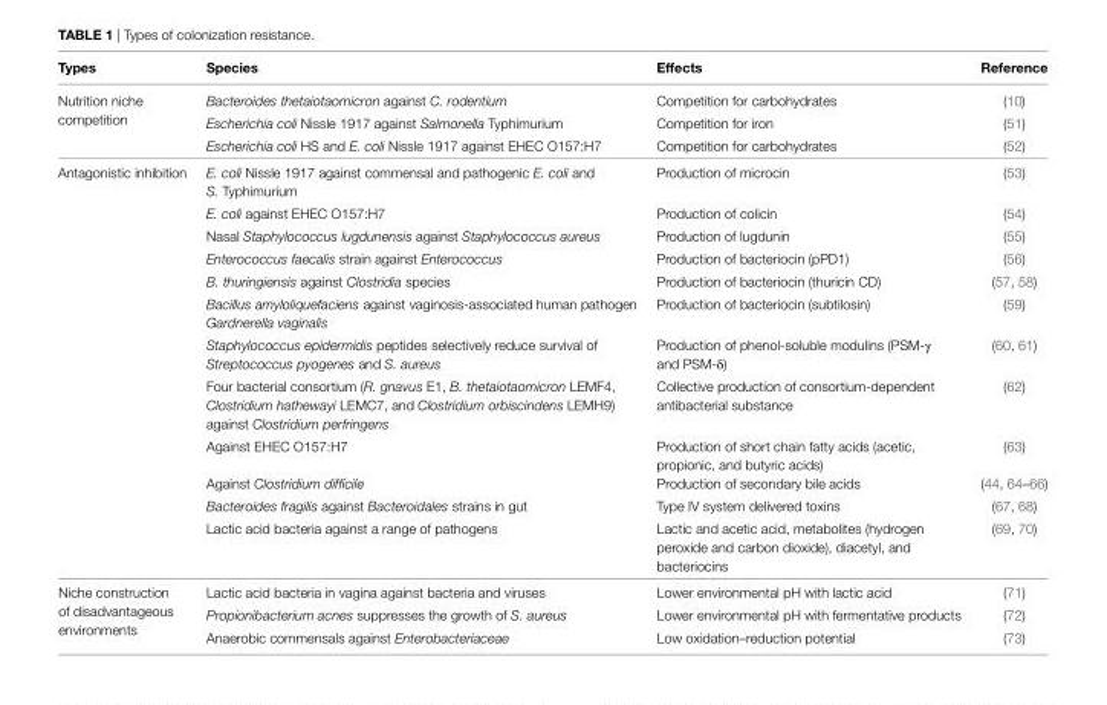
<table><thead><tr><td>Types</td><td>Species</td><td>effects</td><td>Reference</td></tr></thead><tbody><tr><td rowspan="3">Nutrition niche competition</td><td>Bacteroides thetaiotaomicron against C. rodentium</td><td>Competition for carbohydrates</td><td>(10)</td></tr><tr><td>Escherichia coli Nissle 1917 against Salmonella Typhimurium</td><td>Competition for iron</td><td>(51)</td></tr><tr><td>Escherichia coli HS and E. coli Nissle 1917 against EHEC O157:H7</td><td>Competition for carbohydrates</td><td>(52)</td></tr><tr><td rowspan="12">Antagonistic inhibition</td><td>E. coli Nissle 1917 against commensal and pathogenic E. coli and S. Typhimurium</td><td>Production of microcin</td><td>(53)</td></tr><tr><td>E. coli against EHEC O157:H7</td><td>Production of colicin</td><td>(54)</td></tr><tr><td>Nasal Staphylococcus lugdunensis against Staphylococcus aureus</td><td>Production of lugdunin</td><td>(55)</td></tr><tr><td>Enterococcus faecalis strain against Enterococcus</td><td>Production of bacteriocin (pPD1)</td><td>(56)</td></tr><tr><td>B. thuringiensis against Clostridia species</td><td>Production of bacteriocin (thuricin CD)</td><td>(57, 58)</td></tr><tr><td>Bacillus amyloliquefaciens against vaginosis-associated human pathogen Gardnerella vaginalis</td><td>Production of bacteriocin (subtilosin)</td><td>(59)</td></tr><tr><td>Staphylococcus epidermidis peptides selectively reduce survival of Streptococcus pyogenes and S. aureus</td><td>Production of phenol-soluble modulins (PSM-γ and PSM-δ)</td><td>(60, 61)</td></tr><tr><td>Four bacterial consortium (R. gnavus E1, B. thetaiotaomicron LEMF4, Clostridium hathewayi LEMC7, and Clostridium orbiscindens LEMH9) against Clostridium perfringens</td><td>Collective production of consortium-dependent antibacterial substance</td><td>(62)</td></tr><tr><td>Against EHEC O157:H7</td><td>Production of short chain fatty acids (acetic, propionic, and butyric acids)</td><td>(63)</td></tr><tr><td>Against Clostridium difficile</td><td>Production of secondary bile acids</td><td>(44, 64–66)</td></tr><tr><td>Bacteroides fragilis against Bacteroidales strains in gut</td><td>Type IV system delivered toxins</td><td>(67, 68)</td></tr><tr><td>Lactic acid bacteria against a range of pathogens</td><td>Lactic and acetic acid, metabolites (hydrogen peroxide and carbon dioxide), diacetyl, and bacteriocins</td><td>(69, 70)</td></tr><tr><td rowspan="3">Niche construction of disadvantageous environments</td><td>Lactic acid bacteria in vagina against bacteria and viruses</td><td>Lower environmental pH with lactic acid</td><td>(71)</td></tr><tr><td>Propionibacterium acnes suppresses the growth of S. aureus</td><td>Lower environmental pH with fermentative products</td><td>(72)</td></tr><tr><td>Anaerobic commensals against Enterobacteriaceae</td><td>Low oxidation–reduction potential</td><td>(73)</td></tr></tbody></table>